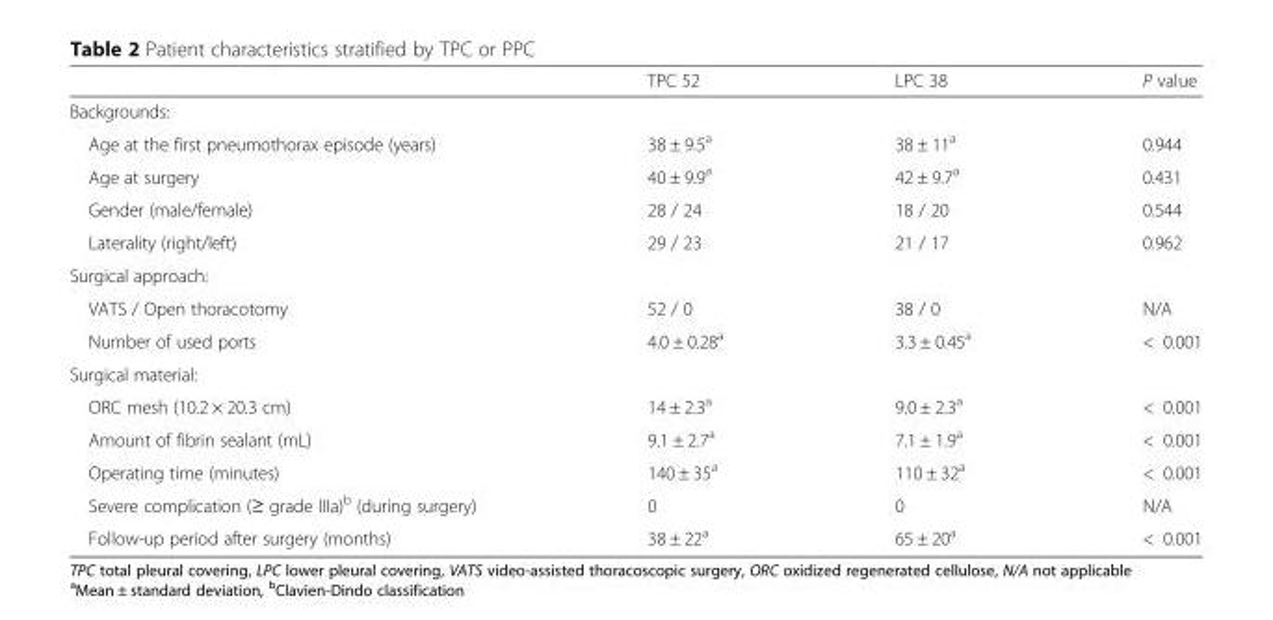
<table><thead><tr><td></td><td>TPC 52</td><td>LPC 38</td><td>P value</td></tr></thead><tbody><tr><td colspan="4">Backgrounds:</td></tr><tr><td>Age at the first pneumothorax episode (years)</td><td>38 ± 9.5<sup>a</sup></td><td>38 ± 11<sup>a</sup></td><td>0.944</td></tr><tr><td>Age at surgery</td><td>40 ± 9.9<sup>a</sup></td><td>42 ± 9.7<sup>a</sup></td><td>0.431</td></tr><tr><td>Gender (male/female)</td><td>28 / 24</td><td>18 / 20</td><td>0.544</td></tr><tr><td>Laterality (right/left)</td><td>29 / 23</td><td>21 / 17</td><td>0.962</td></tr><tr><td colspan="4">Surgical approach:</td></tr><tr><td>VATS / Open thoracotomy</td><td>52 / 0</td><td>38 / 0</td><td>N/A</td></tr><tr><td>Number of used ports</td><td>4.0 ± 0.28<sup>a</sup></td><td>3.3 ± 0.45<sup>a</sup></td><td>&lt; 0.001</td></tr><tr><td colspan="4">Surgical material:</td></tr><tr><td>ORC mesh (10.2 × 20.3 cm)</td><td>14 ± 2.3<sup>a</sup></td><td>9.0 ± 2.3<sup>a</sup></td><td>&lt; 0.001</td></tr><tr><td>Amount of fibrin sealant (mL)</td><td>9.1 ± 2.7<sup>a</sup></td><td>7.1 ± 1.9<sup>a</sup></td><td>&lt; 0.001</td></tr><tr><td>Operating time (minutes)</td><td>140 ± 35<sup>a</sup></td><td>110 ± 32<sup>a</sup></td><td>&lt; 0.001</td></tr><tr><td>Severe complication (≥ grade IIIa)<sup>b</sup> (during surgery)</td><td>0</td><td>0</td><td>N/A</td></tr><tr><td>Follow-up period after surgery (months)</td><td>38 ± 22<sup>a</sup></td><td>65 ± 20<sup>a</sup></td><td>&lt; 0.001</td></tr></tbody></table>